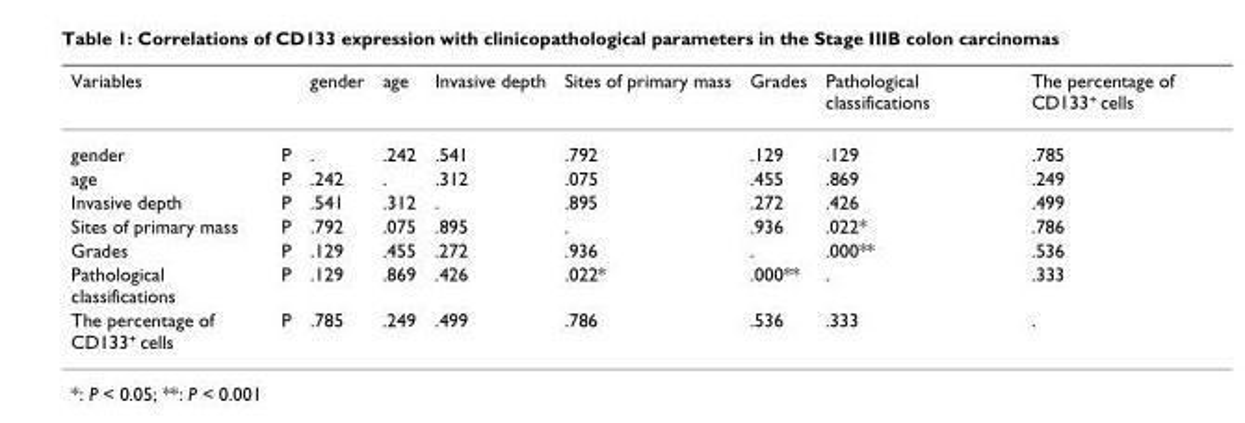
<table><thead><tr><td>Variables</td><td></td><td>gender</td><td>age</td><td>Invasive depth</td><td>Sites of primary mass</td><td>Grades</td><td>Pathological classifications</td><td>The percentage of CD133<sup>+</sup> cells</td></tr></thead><tbody><tr><td>gender</td><td>P</td><td>.</td><td>.242</td><td>.541</td><td>.792</td><td>.129</td><td>.129</td><td>.785</td></tr><tr><td>age</td><td>P</td><td>.242</td><td>.</td><td>.312</td><td>.075</td><td>.455</td><td>.869</td><td>.249</td></tr><tr><td>Invasive depth</td><td>P</td><td>.541</td><td>.312</td><td>.</td><td>.895</td><td>.272</td><td>.426</td><td>.499</td></tr><tr><td>Sites of primary mass</td><td>P</td><td>.792</td><td>.075</td><td>.895</td><td>.</td><td>.936</td><td>.022*</td><td>.786</td></tr><tr><td>Grades</td><td>P</td><td>.129</td><td>.455</td><td>.272</td><td>.936</td><td>.</td><td>.000**</td><td>.536</td></tr><tr><td>Pathological classifications</td><td>P</td><td>.129</td><td>.869</td><td>.426</td><td>.022*</td><td>.000**</td><td>.</td><td>.333</td></tr><tr><td>The percentage of CD133<sup>+</sup> cells</td><td>P</td><td>.785</td><td>.249</td><td>.499</td><td>.786</td><td>.536</td><td>.333</td><td>.</td></tr></tbody></table>